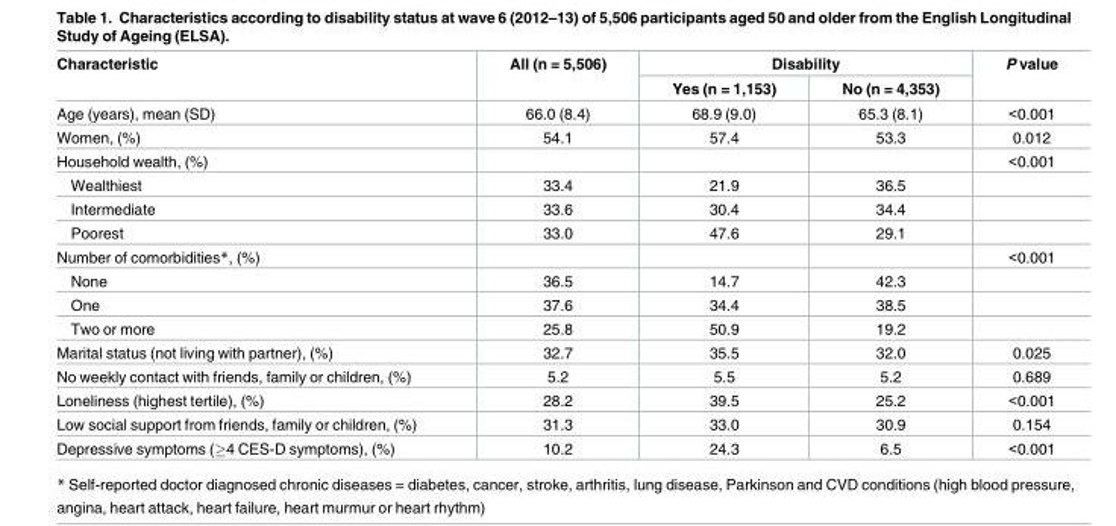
<table><thead><tr><td rowspan="2">Characteristic</td><td rowspan="2">All (n = 5,506)</td><td colspan="2">Disability</td><td rowspan="2">P value</td></tr><tr><td>Yes (n = 1,153)</td><td>No (n = 4,353)</td></tr></thead><tbody><tr><td>Age (years), mean (SD)</td><td>66.0 (8.4)</td><td>68.9 (9.0)</td><td>65.3 (8.1)</td><td>&lt;0.001</td></tr><tr><td>Women, (%)</td><td>54.1</td><td>57.4</td><td>53.3</td><td>0.012</td></tr><tr><td>Household wealth, (%)</td><td></td><td></td><td></td><td>&lt;0.001</td></tr><tr><td>Wealthiest</td><td>33.4</td><td>21.9</td><td>36.5</td><td></td></tr><tr><td>Intermediate</td><td>33.6</td><td>30.4</td><td>34.4</td><td></td></tr><tr><td>Poorest</td><td>33.0</td><td>47.6</td><td>29.1</td><td></td></tr><tr><td>Number of comorbidities*, (%)</td><td></td><td></td><td></td><td>&lt;0.001</td></tr><tr><td>None</td><td>36.5</td><td>14.7</td><td>42.3</td><td></td></tr><tr><td>One</td><td>37.6</td><td>34.4</td><td>38.5</td><td></td></tr><tr><td>Two or more</td><td>25.8</td><td>50.9</td><td>19.2</td><td></td></tr><tr><td>Marital status (not living with partner), (%)</td><td>32.7</td><td>35.5</td><td>32.0</td><td>0.025</td></tr><tr><td>No weekly contact with friends, family or children, (%)</td><td>5.2</td><td>5.5</td><td>5.2</td><td>0.689</td></tr><tr><td>Loneliness (highest tertile), (%)</td><td>28.2</td><td>39.5</td><td>25.2</td><td>&lt;0.001</td></tr><tr><td>Low social support from friends, family or children, (%)</td><td>31.3</td><td>33.0</td><td>30.9</td><td>0.154</td></tr><tr><td>Depressive symptoms (≥4 CES-D symptoms), (%)</td><td>10.2</td><td>24.3</td><td>6.5</td><td>&lt;0.001</td></tr></tbody></table>